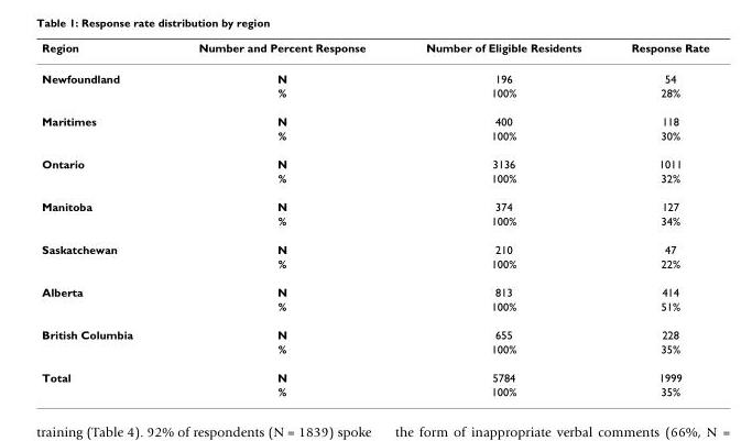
<table><thead><tr><td>Region</td><td>Number and Percent Response</td><td>Number of Eligible Residents</td><td>Response Rate</td></tr></thead><tbody><tr><td rowspan="2">Newfoundland</td><td>N</td><td>196</td><td>54</td></tr><tr><td>%</td><td>100%</td><td>28%</td></tr><tr><td rowspan="2">Maritimes</td><td>N</td><td>400</td><td>118</td></tr><tr><td>%</td><td>100%</td><td>30%</td></tr><tr><td rowspan="2">Ontario</td><td>N</td><td>3136</td><td>1011</td></tr><tr><td>%</td><td>100%</td><td>32%</td></tr><tr><td rowspan="2">Manitoba</td><td>N</td><td>374</td><td>127</td></tr><tr><td>%</td><td>100%</td><td>34%</td></tr><tr><td rowspan="2">Saskatchewan</td><td>N</td><td>210</td><td>47</td></tr><tr><td>%</td><td>100%</td><td>22%</td></tr><tr><td rowspan="2">Alberta</td><td>N</td><td>813</td><td>414</td></tr><tr><td>%</td><td>100%</td><td>51%</td></tr><tr><td rowspan="2">British Columbia</td><td>N</td><td>655</td><td>228</td></tr><tr><td>%</td><td>100%</td><td>35%</td></tr><tr><td rowspan="2">Total</td><td>N</td><td>5784</td><td>1999</td></tr><tr><td>%</td><td>100%</td><td>35%</td></tr></tbody></table>